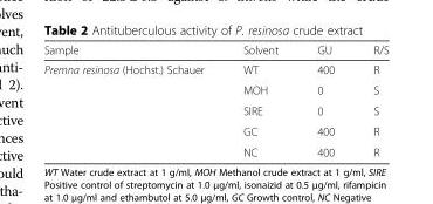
<table><thead><tr><td>Sample</td><td>Solvent</td><td>GU</td><td>R/S</td></tr></thead><tbody><tr><td rowspan="5">Premna resinosa (Hochst.) Schauer</td><td>WT</td><td>400</td><td>R</td></tr><tr><td>MOH</td><td>0</td><td>S</td></tr><tr><td>SIRE</td><td>0</td><td>S</td></tr><tr><td>GC</td><td>400</td><td>R</td></tr><tr><td>NC</td><td>400</td><td>R</td></tr></tbody></table>